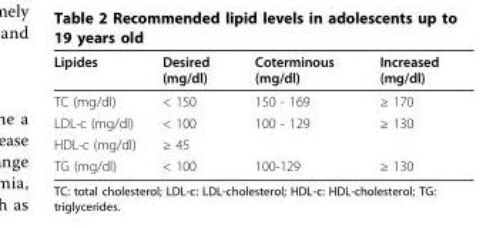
<table><thead><tr><td>Lipides</td><td>Desired (mg/dl)</td><td>Coterminous (mg/dl)</td><td>Increased (mg/dl)</td></tr></thead><tbody><tr><td>TC (mg/dl)</td><td>&lt; 150</td><td>150 - 169</td><td>≥ 170</td></tr><tr><td>LDL-c (mg/dl)</td><td>&lt; 100</td><td>100 - 129</td><td>≥ 130</td></tr><tr><td>HDL-c (mg/dl)</td><td>≥ 45</td><td></td><td></td></tr><tr><td>TG (mg/dl)</td><td>&lt; 100</td><td>100-129</td><td>≥ 130</td></tr></tbody></table>